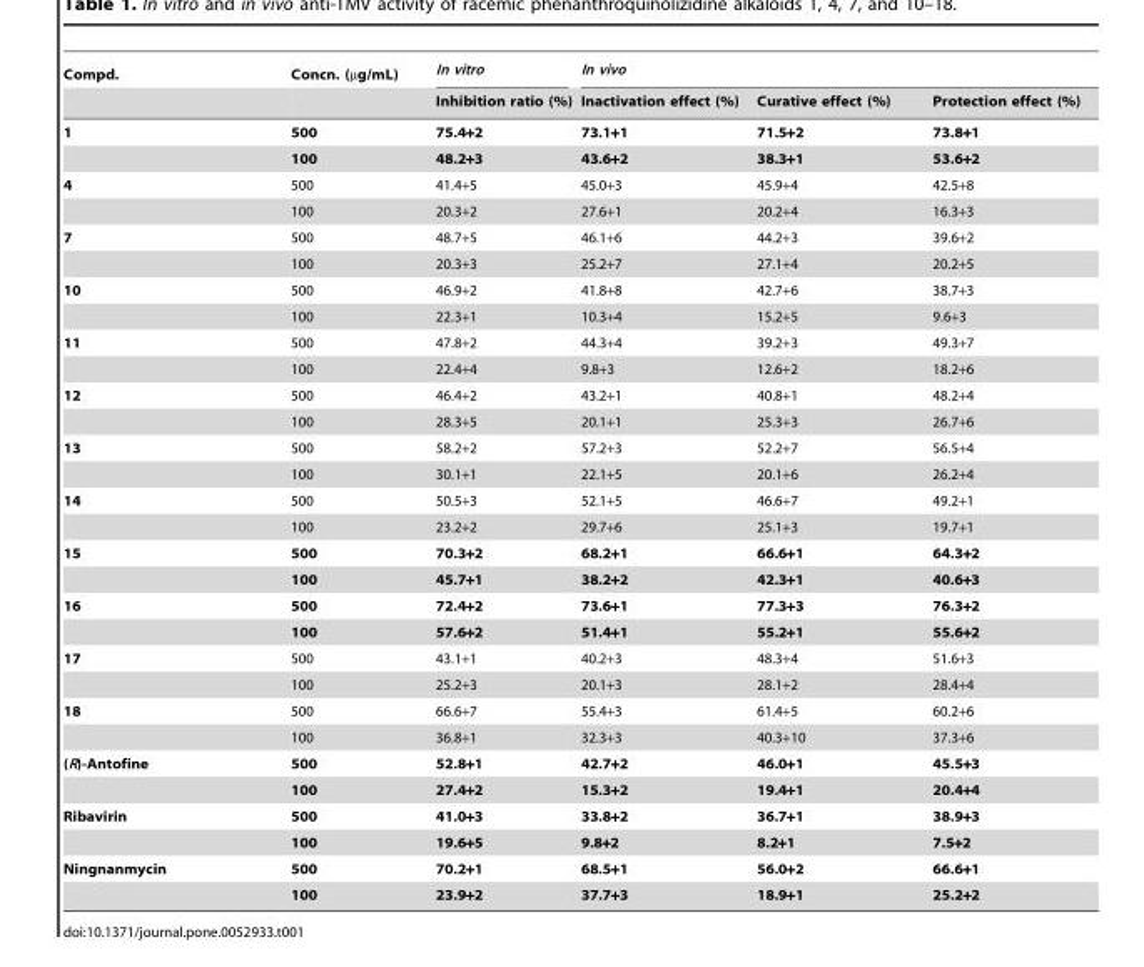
<table><thead><tr><td rowspan="2">Compd.</td><td rowspan="2">Concn. (µg/mL)</td><td rowspan="2">In vitro Inhibition ratio (%)</td><td colspan="3">In vivo</td></tr><tr><td>Inactivation effect (%)</td><td>Curative effect (%)</td><td>Protection effect (%)</td></tr></thead><tbody><tr><td rowspan="2">1</td><td>500</td><td>75.4+2</td><td>73.1+1</td><td>71.5+2</td><td>73.8+1</td></tr><tr><td>100</td><td>48.2+3</td><td>43.6+2</td><td>38.3+1</td><td>53.6+2</td></tr><tr><td rowspan="2">4</td><td>500</td><td>41.4+5</td><td>45.0+3</td><td>45.9+4</td><td>42.5+8</td></tr><tr><td>100</td><td>20.3+2</td><td>27.6+1</td><td>20.2+4</td><td>16.3+3</td></tr><tr><td rowspan="2">7</td><td>500</td><td>48.7+5</td><td>46.1+6</td><td>44.2+3</td><td>39.6+2</td></tr><tr><td>100</td><td>20.3+3</td><td>25.2+7</td><td>27.1+4</td><td>20.2+5</td></tr><tr><td rowspan="2">10</td><td>500</td><td>46.9+2</td><td>41.8+8</td><td>42.7+6</td><td>38.7+3</td></tr><tr><td>100</td><td>22.3+1</td><td>10.3+4</td><td>15.2+5</td><td>9.6+3</td></tr><tr><td rowspan="2">11</td><td>500</td><td>47.8+2</td><td>44.3+4</td><td>39.2+3</td><td>49.3+7</td></tr><tr><td>100</td><td>22.4+4</td><td>9.8+3</td><td>12.6+2</td><td>18.2+6</td></tr><tr><td rowspan="2">12</td><td>500</td><td>46.4+2</td><td>43.2+1</td><td>40.8+1</td><td>48.2+4</td></tr><tr><td>100</td><td>28.3+5</td><td>20.1+1</td><td>25.3+3</td><td>26.7+6</td></tr><tr><td rowspan="2">13</td><td>500</td><td>58.2+2</td><td>57.2+3</td><td>52.2+7</td><td>56.5+4</td></tr><tr><td>100</td><td>30.1+1</td><td>22.1+5</td><td>20.1+6</td><td>26.2+4</td></tr><tr><td rowspan="2">14</td><td>500</td><td>50.5+3</td><td>52.1+5</td><td>46.6+7</td><td>49.2+1</td></tr><tr><td>100</td><td>23.2+2</td><td>29.7+6</td><td>25.1+3</td><td>19.7+1</td></tr><tr><td rowspan="2">15</td><td>500</td><td>70.3+2</td><td>68.2+1</td><td>66.6+1</td><td>64.3+2</td></tr><tr><td>100</td><td>45.7+1</td><td>38.2+2</td><td>42.3+1</td><td>40.6+3</td></tr><tr><td rowspan="2">16</td><td>500</td><td>72.4+2</td><td>73.6+1</td><td>77.3+3</td><td>76.3+2</td></tr><tr><td>100</td><td>57.6+2</td><td>51.4+1</td><td>55.2+1</td><td>55.6+2</td></tr><tr><td rowspan="2">17</td><td>500</td><td>43.1+1</td><td>40.2+3</td><td>48.3+4</td><td>51.6+3</td></tr><tr><td>100</td><td>25.2+3</td><td>20.1+3</td><td>28.1+2</td><td>28.4+4</td></tr><tr><td rowspan="2">18</td><td>500</td><td>66.6+7</td><td>55.4+3</td><td>61.4+5</td><td>60.2+6</td></tr><tr><td>100</td><td>36.8+1</td><td>32.3+3</td><td>40.3+10</td><td>37.3+6</td></tr><tr><td rowspan="2">(R)-Antofine</td><td>500</td><td>52.8+1</td><td>42.7+2</td><td>46.0+1</td><td>45.5+3</td></tr><tr><td>100</td><td>27.4+2</td><td>15.3+2</td><td>19.4+1</td><td>20.4+4</td></tr><tr><td rowspan="2">Ribavirin</td><td>500</td><td>41.0+3</td><td>33.8+2</td><td>36.7+1</td><td>38.9+3</td></tr><tr><td>100</td><td>19.6+5</td><td>9.8+2</td><td>8.2+1</td><td>7.5+2</td></tr><tr><td rowspan="2">Ningnanmycin</td><td>500</td><td>70.2+1</td><td>68.5+1</td><td>56.0+2</td><td>66.6+1</td></tr><tr><td>100</td><td>23.9+2</td><td>37.7+3</td><td>18.9+1</td><td>25.2+2</td></tr></tbody></table>